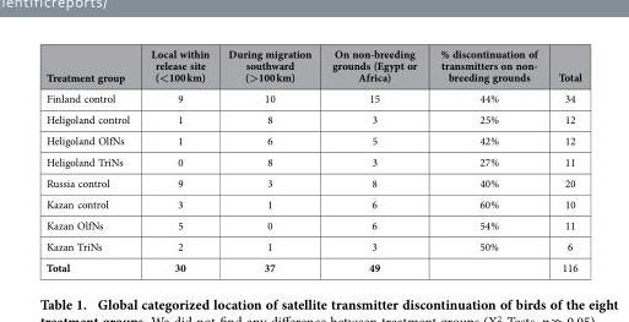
<table><thead><tr><td>Treatment group</td><td>Local within release site (&lt;100 km)</td><td>During migration southward (&gt;100 km)</td><td>On non-breeding grounds (Egypt or Africa)</td><td>% discontinuation of transmitters on non- breeding grounds</td><td>Total</td></tr></thead><tbody><tr><td>Finland control</td><td>9</td><td>10</td><td>15</td><td>44%</td><td>34</td></tr><tr><td>Heligoland control</td><td>1</td><td>8</td><td>3</td><td>25%</td><td>12</td></tr><tr><td>Heligoland OlfNs</td><td>1</td><td>6</td><td>5</td><td>42%</td><td>12</td></tr><tr><td>Heligoland TriNs</td><td>0</td><td>8</td><td>3</td><td>27%</td><td>11</td></tr><tr><td>Russia control</td><td>9</td><td>3</td><td>8</td><td>40%</td><td>20</td></tr><tr><td>Kazan control</td><td>3</td><td>1</td><td>6</td><td>60%</td><td>10</td></tr><tr><td>Kazan OlfNs</td><td>5</td><td>0</td><td>6</td><td>54%</td><td>11</td></tr><tr><td>Kazan TriNs</td><td>2</td><td>1</td><td>3</td><td>50%</td><td>6</td></tr><tr><td>Total</td><td>30</td><td>37</td><td>49</td><td></td><td>116</td></tr></tbody></table>